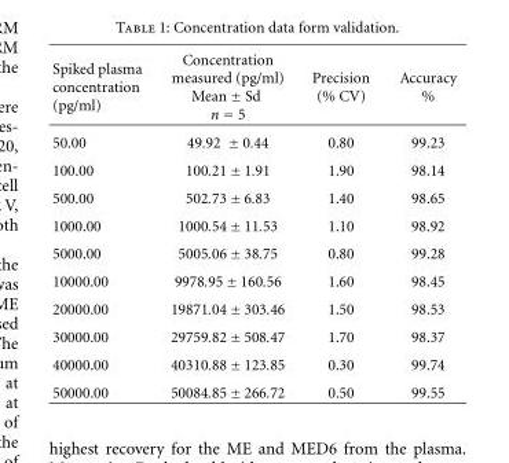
<table><thead><tr><td>Spiked plasma concentration (pg/ml)</td><td>Concentration measured (pg/ml) Mean ± Sd n = 5</td><td>Precision (% CV)</td><td>Accuracy %</td></tr></thead><tbody><tr><td>50.00</td><td>49.92 ± 0.44</td><td>0.80</td><td>99.23</td></tr><tr><td>100.00</td><td>100.21 ± 1.91</td><td>1.90</td><td>98.14</td></tr><tr><td>500.00</td><td>502.73 ± 6.83</td><td>1.40</td><td>98.65</td></tr><tr><td>1000.00</td><td>1000.54 ± 11.53</td><td>1.10</td><td>98.92</td></tr><tr><td>5000.00</td><td>5005.06 ± 38.75</td><td>0.80</td><td>99.28</td></tr><tr><td>10000.00</td><td>9978.95 ± 160.56</td><td>1.60</td><td>98.45</td></tr><tr><td>20000.00</td><td>19871.04 ± 303.46</td><td>1.50</td><td>98.53</td></tr><tr><td>30000.00</td><td>29759.82 ± 508.47</td><td>1.70</td><td>98.37</td></tr><tr><td>40000.00</td><td>40310.88 ± 123.85</td><td>0.30</td><td>99.74</td></tr><tr><td>50000.00</td><td>50084.85 ± 266.72</td><td>0.50</td><td>99.55</td></tr></tbody></table>